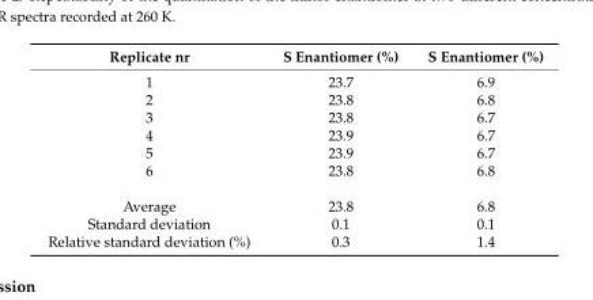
<table><thead><tr><td>Replicate nr</td><td>S Enantiomer (%)</td><td>S Enantiomer (%)</td></tr></thead><tbody><tr><td>1</td><td>23.7</td><td>6.9</td></tr><tr><td>2</td><td>23.8</td><td>6.8</td></tr><tr><td>3</td><td>23.8</td><td>6.7</td></tr><tr><td>4</td><td>23.9</td><td>6.7</td></tr><tr><td>5</td><td>23.9</td><td>6.7</td></tr><tr><td>6</td><td>23.8</td><td>6.8</td></tr><tr><td>Average</td><td>23.8</td><td>6.8</td></tr><tr><td>Standard deviation</td><td>0.1</td><td>0.1</td></tr><tr><td>Relative standard deviation (%)</td><td>0.3</td><td>1.4</td></tr></tbody></table>